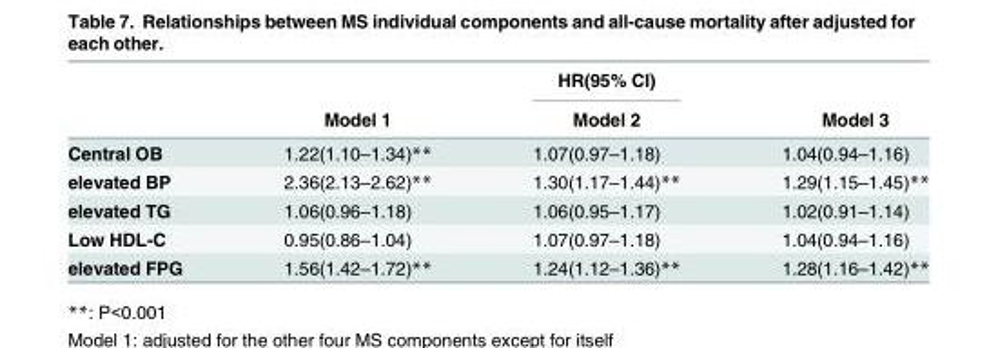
<table><thead><tr><td rowspan="2"></td><td rowspan="2">Model 1</td><td rowspan="2">HR(95% CI) Model 2</td><td rowspan="2">Model 3</td></tr><tr></tr></thead><tbody><tr><td>Central OB</td><td>1.22(1.10–1.34)**</td><td>1.07(0.97–1.18)</td><td>1.04(0.94–1.16)</td></tr><tr><td>elevated BP</td><td>2.36(2.13–2.62)**</td><td>1.30(1.17–1.44)**</td><td>1.29(1.15–1.45)**</td></tr><tr><td>elevated TG</td><td>1.06(0.96–1.18)</td><td>1.06(0.95–1.17)</td><td>1.02(0.91–1.14)</td></tr><tr><td>Low HDL-C</td><td>0.95(0.86–1.04)</td><td>1.07(0.97–1.18)</td><td>1.04(0.94–1.16)</td></tr><tr><td>elevated FPG</td><td>1.56(1.42–1.72)**</td><td>1.24(1.12–1.36)**</td><td>1.28(1.16–1.42)**</td></tr></tbody></table>